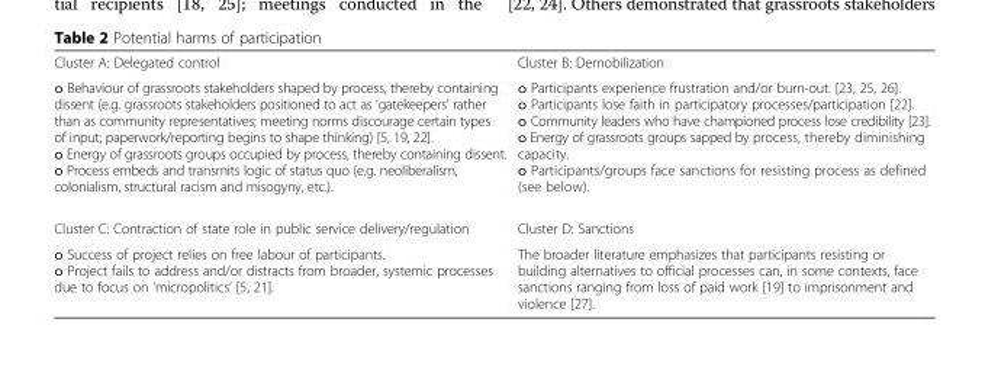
<table><tbody><tr><td>Cluster A: Delegated control</td><td>Cluster B: Demobilization</td></tr><tr><td>o Behaviour of grassroots stakeholders shaped by process, thereby containing dissent (e.g. grassroots stakeholders positioned to act as ‘gatekeepers’ rather than as community representatives; meeting norms discourage certain types of input; paperwork/reporting begins to shape thinking) [5, 19, 22]. o Energy of grassroots groups occupied by process, thereby containing dissent. o Process embeds and transmits logic of status quo (e.g. neoliberalism, colonialism, structural racism and misogyny, etc.).</td><td>o Participants experience frustration and/or burn-out. [23, 25, 26]. o Participants lose faith in participatory processes/participation [22]. o Community leaders who have championed process lose credibility [23]. o Energy of grassroots groups sapped by process, thereby diminishing capacity. o Participants/groups face sanctions for resisting process as defined (see below).</td></tr><tr><td>Cluster C: Contraction of state role in public service delivery/regulation</td><td>Cluster D: Sanctions</td></tr><tr><td>o Success of project relies on free labour of participants. o Project fails to address and/or distracts from broader, systemic processes due to focus on ‘micropolitics’ [5, 21].</td><td>The broader literature emphasizes that participants resisting or building alternatives to official processes can, in some contexts, face sanctions ranging from loss of paid work [19] to imprisonment and violence [27].</td></tr></tbody></table>